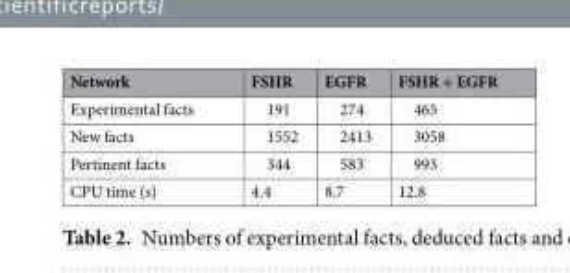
<table><thead><tr><td>Network</td><td>FSHR</td><td>EGFR</td><td>FSHR + EGFR</td></tr></thead><tbody><tr><td>Experimental facts</td><td>191</td><td>274</td><td>465</td></tr><tr><td>New facts</td><td>1552</td><td>2413</td><td>3058</td></tr><tr><td>Pertinent facts</td><td>344</td><td>583</td><td>993</td></tr><tr><td>CPU time (s)</td><td>4.4</td><td>8.7</td><td>12.8</td></tr></tbody></table>